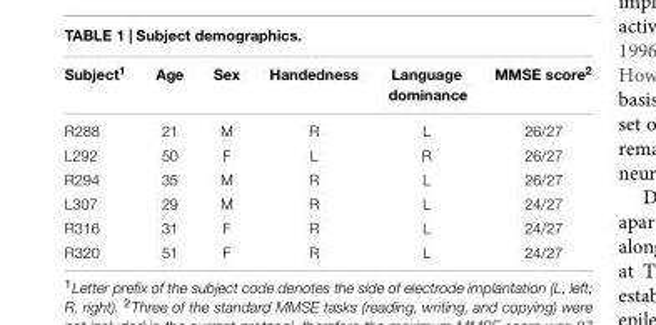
<table><thead><tr><td>Subject<sup>1</sup></td><td>Age</td><td>Sex</td><td>Handedness</td><td>Language dominance</td><td>MMSE score<sup>2</sup></td></tr></thead><tbody><tr><td>R288</td><td>21</td><td>M</td><td>R</td><td>L</td><td>26/27</td></tr><tr><td>L292</td><td>50</td><td>F</td><td>L</td><td>R</td><td>26/27</td></tr><tr><td>R294</td><td>35</td><td>M</td><td>R</td><td>L</td><td>26/27</td></tr><tr><td>L307</td><td>29</td><td>M</td><td>R</td><td>L</td><td>24/27</td></tr><tr><td>R316</td><td>31</td><td>F</td><td>R</td><td>L</td><td>24/27</td></tr><tr><td>R320</td><td>51</td><td>F</td><td>R</td><td>L</td><td>24/27</td></tr></tbody></table>